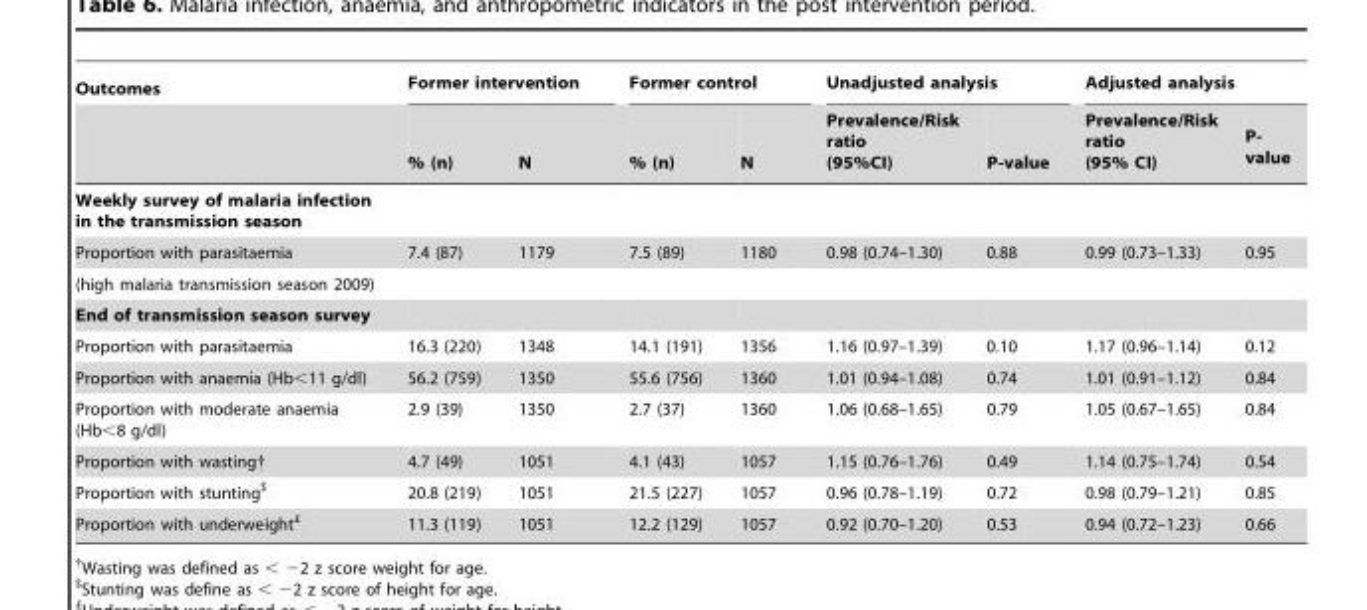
<table><thead><tr><td rowspan="2">Outcomes</td><td colspan="2">Former intervention</td><td colspan="2">Former control</td><td colspan="2">Unadjusted analysis</td><td colspan="2">Adjusted analysis</td></tr><tr><td>% (n)</td><td>N</td><td>% (n)</td><td>N</td><td>Prevalence/Risk ratio (95%CI)</td><td>P-value</td><td>Prevalence/Risk ratio (95% CI)</td><td>P- value</td></tr></thead><tbody><tr><td colspan="9">Weekly survey of malaria infection in the transmission season</td></tr><tr><td>Proportion with parasitaemia</td><td>7.4 (87)</td><td>1179</td><td>7.5 (89)</td><td>1180</td><td>0.98 (0.74–1.30)</td><td>0.88</td><td>0.99 (0.73–1.33)</td><td>0.95</td></tr><tr><td colspan="9">(high malaria transmission season 2009)</td></tr><tr><td colspan="9">End of transmission season survey</td></tr><tr><td>Proportion with parasitaemia</td><td>16.3 (220)</td><td>1348</td><td>14.1 (191)</td><td>1356</td><td>1.16 (0.97–1.39)</td><td>0.10</td><td>1.17 (0.96–1.14)</td><td>0.12</td></tr><tr><td>Proportion with anaemia (Hb&lt;11 g/dl)</td><td>56.2 (759)</td><td>1350</td><td>55.6 (756)</td><td>1360</td><td>1.01 (0.94–1.08)</td><td>0.74</td><td>1.01 (0.91–1.12)</td><td>0.84</td></tr><tr><td>Proportion with moderate anaemia (Hb&lt;8 g/dl)</td><td>2.9 (39)</td><td>1350</td><td>2.7 (37)</td><td>1360</td><td>1.06 (0.68–1.65)</td><td>0.79</td><td>1.05 (0.67–1.65)</td><td>0.84</td></tr><tr><td>Proportion with wasting†</td><td>4.7 (49)</td><td>1051</td><td>4.1 (43)</td><td>1057</td><td>1.15 (0.76–1.76)</td><td>0.49</td><td>1.14 (0.75–1.74)</td><td>0.54</td></tr><tr><td>Proportion with stunting$</td><td>20.8 (219)</td><td>1051</td><td>21.5 (227)</td><td>1057</td><td>0.96 (0.78–1.19)</td><td>0.72</td><td>0.98 (0.79–1.21)</td><td>0.85</td></tr><tr><td>Proportion with underweight£</td><td>11.3 (119)</td><td>1051</td><td>12.2 (129)</td><td>1057</td><td>0.92 (0.70–1.20)</td><td>0.53</td><td>0.94 (0.72–1.23)</td><td>0.66</td></tr></tbody></table>